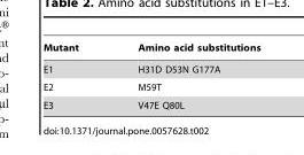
<table><thead><tr><td>Mutant</td><td>Amino acid substitutions</td></tr></thead><tbody><tr><td>E1</td><td>H31D D53N G177A</td></tr><tr><td>E2</td><td>M59T</td></tr><tr><td>E3</td><td>V47E Q80L</td></tr></tbody></table>